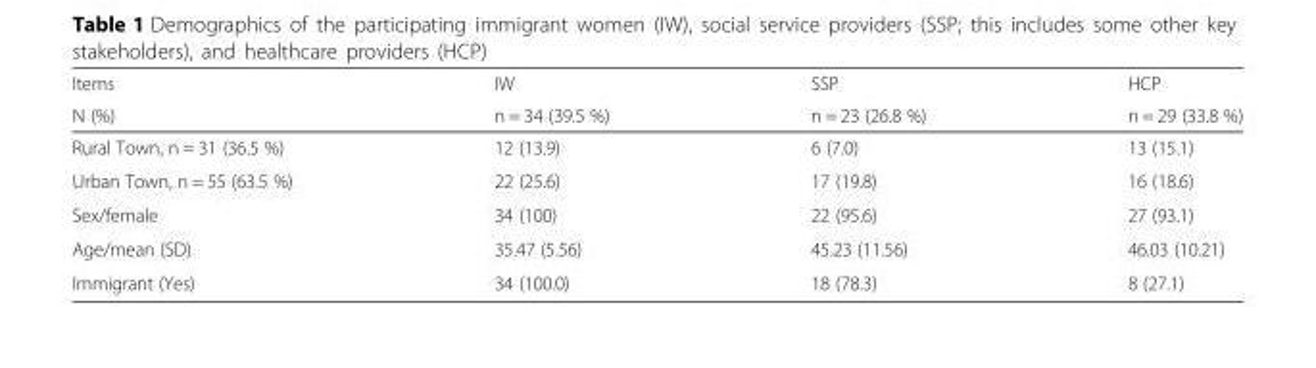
<table><thead><tr><td rowspan="2">Items N (%)</td><td rowspan="2">IW n = 34 (39.5 %)</td><td rowspan="2">SSP n = 23 (26.8 %)</td><td rowspan="2">HCP n = 29 (33.8 %)</td></tr><tr></tr></thead><tbody><tr><td>Rural Town, n = 31 (36.5 %)</td><td>12 (13.9)</td><td>6 (7.0)</td><td>13 (15.1)</td></tr><tr><td>Urban Town, n = 55 (63.5 %)</td><td>22 (25.6)</td><td>17 (19.8)</td><td>16 (18.6)</td></tr><tr><td>Sex/female</td><td>34 (100)</td><td>22 (95.6)</td><td>27 (93.1)</td></tr><tr><td>Age/mean (SD)</td><td>35.47 (5.56)</td><td>45.23 (11.56)</td><td>46.03 (10.21)</td></tr><tr><td>Immigrant (Yes)</td><td>34 (100.0)</td><td>18 (78.3)</td><td>8 (27.1)</td></tr></tbody></table>